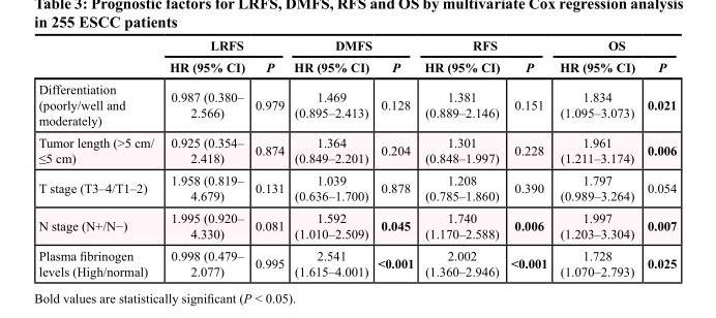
<table><thead><tr><td rowspan="2"></td><td colspan="2">LRFS</td><td colspan="2">DMFS</td><td colspan="2">RFS</td><td colspan="2">OS</td></tr><tr><td>HR (95% CI)</td><td>P</td><td>HR (95% CI)</td><td>P</td><td>HR (95% CI)</td><td>P</td><td>HR (95% CI)</td><td>P</td></tr></thead><tbody><tr><td>Differentiation (poorly/well and moderately)</td><td>0.987 (0.380– 2.566)</td><td>0.979</td><td>1.469 (0.895–2.413)</td><td>0.128</td><td>1.381 (0.889–2.146)</td><td>0.151</td><td>1.834 (1.095–3.073)</td><td>0.021</td></tr><tr><td>Tumor length (&gt;5 cm/ ≤5 cm)</td><td>0.925 (0.354– 2.418)</td><td>0.874</td><td>1.364 (0.849–2.201)</td><td>0.204</td><td>1.301 (0.848–1.997)</td><td>0.228</td><td>1.961 (1.211–3.174)</td><td>0.006</td></tr><tr><td>T stage (T3–4/T1–2)</td><td>1.958 (0.819– 4.679)</td><td>0.131</td><td>1.039 (0.636–1.700)</td><td>0.878</td><td>1.208 (0.785–1.860)</td><td>0.390</td><td>1.797 (0.989–3.264)</td><td>0.054</td></tr><tr><td>N stage (N+/N−)</td><td>1.995 (0.920– 4.330)</td><td>0.081</td><td>1.592 (1.010–2.509)</td><td>0.045</td><td>1.740 (1.170–2.588)</td><td>0.006</td><td>1.997 (1.203–3.304)</td><td>0.007</td></tr><tr><td>Plasma fibrinogen levels (High/normal)</td><td>0.998 (0.479– 2.077)</td><td>0.995</td><td>2.541 (1.615–4.001)</td><td>&lt;0.001</td><td>2.002 (1.360–2.946)</td><td>&lt;0.001</td><td>1.728 (1.070–2.793)</td><td>0.025</td></tr></tbody></table>